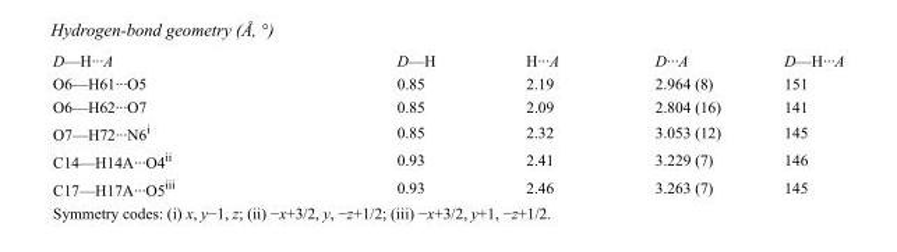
<table><tbody><tr><td>D—H···A</td><td>D—H</td><td>H···A</td><td>D···A</td><td>D—H···A</td></tr><tr><td>O6—H61···O5</td><td>0.85</td><td>2.19</td><td>2.964 (8)</td><td>151</td></tr><tr><td>O6—H62···O7</td><td>0.85</td><td>2.09</td><td>2.804 (16)</td><td>141</td></tr><tr><td>O7—H72···N6<sup>i</sup></td><td>0.85</td><td>2.32</td><td>3.053 (12)</td><td>145</td></tr><tr><td>C14—H14A···O4<sup>ii</sup></td><td>0.93</td><td>2.41</td><td>3.229 (7)</td><td>146</td></tr><tr><td>C17—H17A···O5<sup>iii</sup></td><td>0.93</td><td>2.46</td><td>3.263 (7)</td><td>145</td></tr></tbody></table>